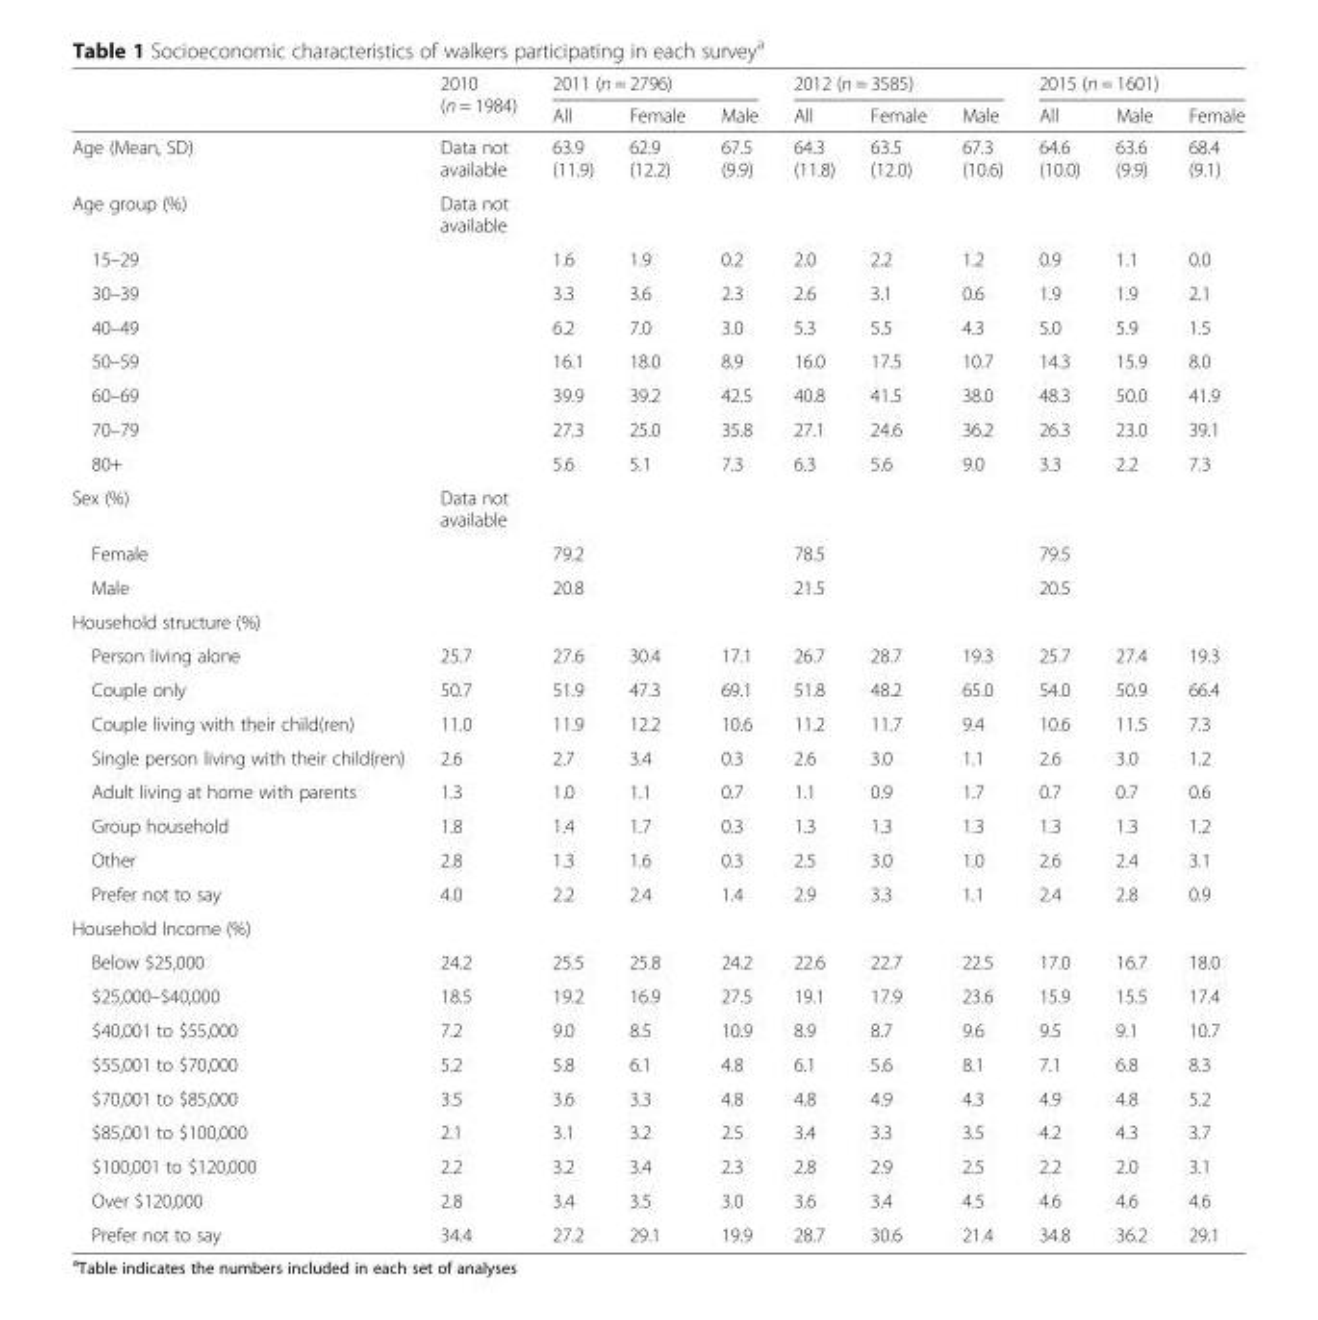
<table><thead><tr><td rowspan="2"></td><td rowspan="2">2010 (n = 1984)</td><td colspan="3">2011 (n = 2796)</td><td colspan="3">2012 (n = 3585)</td><td colspan="3">2015 (n = 1601)</td></tr><tr><td>All</td><td>Female</td><td>Male</td><td>All</td><td>Female</td><td>Male</td><td>All</td><td>Male</td><td>Female</td></tr></thead><tbody><tr><td>Age (Mean, SD)</td><td>Data not available</td><td>63.9 (11.9)</td><td>62.9 (12.2)</td><td>67.5 (9.9)</td><td>64.3 (11.8)</td><td>63.5 (12.0)</td><td>67.3 (10.6)</td><td>64.6 (10.0)</td><td>63.6 (9.9)</td><td>68.4 (9.1)</td></tr><tr><td>Age group (%)</td><td>Data not available</td><td></td><td></td><td></td><td></td><td></td><td></td><td></td><td></td><td></td></tr><tr><td>15–29</td><td></td><td>1.6</td><td>1.9</td><td>0.2</td><td>2.0</td><td>2.2</td><td>1.2</td><td>0.9</td><td>1.1</td><td>0.0</td></tr><tr><td>30–39</td><td></td><td>3.3</td><td>3.6</td><td>2.3</td><td>2.6</td><td>3.1</td><td>0.6</td><td>1.9</td><td>1.9</td><td>2.1</td></tr><tr><td>40–49</td><td></td><td>6.2</td><td>7.0</td><td>3.0</td><td>5.3</td><td>5.5</td><td>4.3</td><td>5.0</td><td>5.9</td><td>1.5</td></tr><tr><td>50–59</td><td></td><td>16.1</td><td>18.0</td><td>8.9</td><td>16.0</td><td>17.5</td><td>10.7</td><td>14.3</td><td>15.9</td><td>8.0</td></tr><tr><td>60–69</td><td></td><td>39.9</td><td>39.2</td><td>42.5</td><td>40.8</td><td>41.5</td><td>38.0</td><td>48.3</td><td>50.0</td><td>41.9</td></tr><tr><td>70–79</td><td></td><td>27.3</td><td>25.0</td><td>35.8</td><td>27.1</td><td>24.6</td><td>36.2</td><td>26.3</td><td>23.0</td><td>39.1</td></tr><tr><td>80+</td><td></td><td>5.6</td><td>5.1</td><td>7.3</td><td>6.3</td><td>5.6</td><td>9.0</td><td>3.3</td><td>2.2</td><td>7.3</td></tr><tr><td>Sex (%)</td><td>Data not available</td><td></td><td></td><td></td><td></td><td></td><td></td><td></td><td></td><td></td></tr><tr><td>Female</td><td></td><td>79.2</td><td></td><td></td><td>78.5</td><td></td><td></td><td>79.5</td><td></td><td></td></tr><tr><td>Male</td><td></td><td>20.8</td><td></td><td></td><td>21.5</td><td></td><td></td><td>20.5</td><td></td><td></td></tr><tr><td colspan="11">Household structure (%)</td></tr><tr><td>Person living alone</td><td>25.7</td><td>27.6</td><td>30.4</td><td>17.1</td><td>26.7</td><td>28.7</td><td>19.3</td><td>25.7</td><td>27.4</td><td>19.3</td></tr><tr><td>Couple only</td><td>50.7</td><td>51.9</td><td>47.3</td><td>69.1</td><td>51.8</td><td>48.2</td><td>65.0</td><td>54.0</td><td>50.9</td><td>66.4</td></tr><tr><td>Couple living with their child(ren)</td><td>11.0</td><td>11.9</td><td>12.2</td><td>10.6</td><td>11.2</td><td>11.7</td><td>9.4</td><td>10.6</td><td>11.5</td><td>7.3</td></tr><tr><td>Single person living with their child(ren)</td><td>2.6</td><td>2.7</td><td>3.4</td><td>0.3</td><td>2.6</td><td>3.0</td><td>1.1</td><td>2.6</td><td>3.0</td><td>1.2</td></tr><tr><td>Adult living at home with parents</td><td>1.3</td><td>1.0</td><td>1.1</td><td>0.7</td><td>1.1</td><td>0.9</td><td>1.7</td><td>0.7</td><td>0.7</td><td>0.6</td></tr><tr><td>Group household</td><td>1.8</td><td>1.4</td><td>1.7</td><td>0.3</td><td>1.3</td><td>1.3</td><td>1.3</td><td>1.3</td><td>1.3</td><td>1.2</td></tr><tr><td>Other</td><td>2.8</td><td>1.3</td><td>1.6</td><td>0.3</td><td>2.5</td><td>3.0</td><td>1.0</td><td>2.6</td><td>2.4</td><td>3.1</td></tr><tr><td>Prefer not to say</td><td>4.0</td><td>2.2</td><td>2.4</td><td>1.4</td><td>2.9</td><td>3.3</td><td>1.1</td><td>2.4</td><td>2.8</td><td>0.9</td></tr><tr><td colspan="11">Household Income (%)</td></tr><tr><td>Below $25,000</td><td>24.2</td><td>25.5</td><td>25.8</td><td>24.2</td><td>22.6</td><td>22.7</td><td>22.5</td><td>17.0</td><td>16.7</td><td>18.0</td></tr><tr><td>$25,000–$40,000</td><td>18.5</td><td>19.2</td><td>16.9</td><td>27.5</td><td>19.1</td><td>17.9</td><td>23.6</td><td>15.9</td><td>15.5</td><td>17.4</td></tr><tr><td>$40,001 to $55,000</td><td>7.2</td><td>9.0</td><td>8.5</td><td>10.9</td><td>8.9</td><td>8.7</td><td>9.6</td><td>9.5</td><td>9.1</td><td>10.7</td></tr><tr><td>$55,001 to $70,000</td><td>5.2</td><td>5.8</td><td>6.1</td><td>4.8</td><td>6.1</td><td>5.6</td><td>8.1</td><td>7.1</td><td>6.8</td><td>8.3</td></tr><tr><td>$70,001 to $85,000</td><td>3.5</td><td>3.6</td><td>3.3</td><td>4.8</td><td>4.8</td><td>4.9</td><td>4.3</td><td>4.9</td><td>4.8</td><td>5.2</td></tr><tr><td>$85,001 to $100,000</td><td>2.1</td><td>3.1</td><td>3.2</td><td>2.5</td><td>3.4</td><td>3.3</td><td>3.5</td><td>4.2</td><td>4.3</td><td>3.7</td></tr><tr><td>$100,001 to $120,000</td><td>2.2</td><td>3.2</td><td>3.4</td><td>2.3</td><td>2.8</td><td>2.9</td><td>2.5</td><td>2.2</td><td>2.0</td><td>3.1</td></tr><tr><td>Over $120,000</td><td>2.8</td><td>3.4</td><td>3.5</td><td>3.0</td><td>3.6</td><td>3.4</td><td>4.5</td><td>4.6</td><td>4.6</td><td>4.6</td></tr><tr><td>Prefer not to say</td><td>34.4</td><td>27.2</td><td>29.1</td><td>19.9</td><td>28.7</td><td>30.6</td><td>21.4</td><td>34.8</td><td>36.2</td><td>29.1</td></tr></tbody></table>